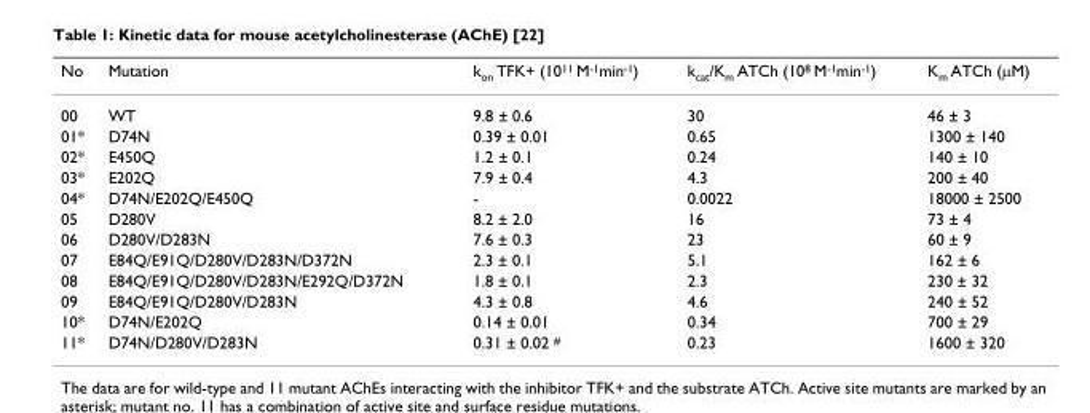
<table><thead><tr><td>No</td><td>Mutation</td><td>k<sub>on</sub> TFK+ (10<sup>11</sup> M<sup>-1</sup>min<sup>-1</sup>)</td><td>k<sub>cat</sub>/K<sub>m</sub> ATCh (10<sup>8</sup> M<sup>-1</sup>min<sup>-1</sup>)</td><td>K<sub>m</sub> ATCh (μM)</td></tr></thead><tbody><tr><td>00</td><td>WT</td><td>9.8 ± 0.6</td><td>30</td><td>46 ± 3</td></tr><tr><td>01*</td><td>D74N</td><td>0.39 ± 0.01</td><td>0.65</td><td>1300 ± 140</td></tr><tr><td>02*</td><td>E450Q</td><td>1.2 ± 0.1</td><td>0.24</td><td>140 ± 10</td></tr><tr><td>03*</td><td>E202Q</td><td>7.9 ± 0.4</td><td>4.3</td><td>200 ± 40</td></tr><tr><td>04*</td><td>D74N/E202Q/E450Q</td><td>-</td><td>0.0022</td><td>18000 ± 2500</td></tr><tr><td>05</td><td>D280V</td><td>8.2 ± 2.0</td><td>16</td><td>73 ± 4</td></tr><tr><td>06</td><td>D280V/D283N</td><td>7.6 ± 0.3</td><td>23</td><td>60 ± 9</td></tr><tr><td>07</td><td>E84Q/E91Q/D280V/D283N/D372N</td><td>2.3 ± 0.1</td><td>5.1</td><td>162 ± 6</td></tr><tr><td>08</td><td>E84Q/E91Q/D280V/D283N/E292Q/D372N</td><td>1.8 ± 0.1</td><td>2.3</td><td>230 ± 32</td></tr><tr><td>09</td><td>E84Q/E91Q/D280V/D283N</td><td>4.3 ± 0.8</td><td>4.6</td><td>240 ± 52</td></tr><tr><td>10*</td><td>D74N/E202Q</td><td>0.14 ± 0.01</td><td>0.34</td><td>700 ± 29</td></tr><tr><td>11*</td><td>D74N/D280V/D283N</td><td>0.31 ± 0.02 <sup>#</sup></td><td>0.23</td><td>1600 ± 320</td></tr></tbody></table>